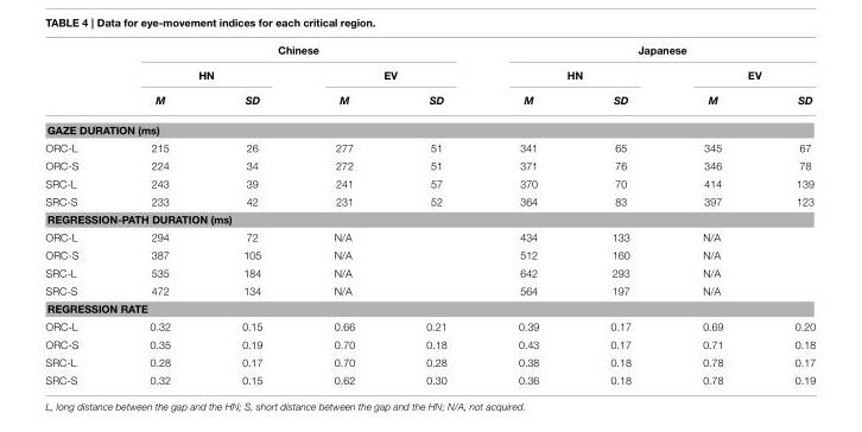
<table><thead><tr><td rowspan="3"></td><td colspan="4">Chinese</td><td colspan="4">Japanese</td></tr><tr><td colspan="2">HN</td><td colspan="2">EV</td><td colspan="2">HN</td><td colspan="2">EV</td></tr><tr><td>M</td><td>SD</td><td>M</td><td>SD</td><td>M</td><td>SD</td><td>M</td><td>SD</td></tr></thead><tbody><tr><td colspan="9">GAZE DURATION (ms)</td></tr><tr><td>ORC-L</td><td>215</td><td>26</td><td>277</td><td>51</td><td>341</td><td>65</td><td>345</td><td>67</td></tr><tr><td>ORC-S</td><td>224</td><td>34</td><td>272</td><td>51</td><td>371</td><td>76</td><td>346</td><td>78</td></tr><tr><td>SRC-L</td><td>243</td><td>39</td><td>241</td><td>57</td><td>370</td><td>70</td><td>414</td><td>139</td></tr><tr><td>SRC-S</td><td>233</td><td>42</td><td>231</td><td>52</td><td>364</td><td>83</td><td>397</td><td>123</td></tr><tr><td colspan="9">REGRESSION-PATH DURATION (ms)</td></tr><tr><td>ORC-L</td><td>294</td><td>72</td><td>N/A</td><td></td><td>434</td><td>133</td><td>N/A</td><td></td></tr><tr><td>ORC-S</td><td>387</td><td>105</td><td>N/A</td><td></td><td>512</td><td>160</td><td>N/A</td><td></td></tr><tr><td>SRC-L</td><td>535</td><td>184</td><td>N/A</td><td></td><td>642</td><td>293</td><td>N/A</td><td></td></tr><tr><td>SRC-S</td><td>472</td><td>134</td><td>N/A</td><td></td><td>564</td><td>197</td><td>N/A</td><td></td></tr><tr><td colspan="9">REGRESSION RATE</td></tr><tr><td>ORC-L</td><td>0.32</td><td>0.15</td><td>0.66</td><td>0.21</td><td>0.39</td><td>0.17</td><td>0.69</td><td>0.20</td></tr><tr><td>ORC-S</td><td>0.35</td><td>0.19</td><td>0.70</td><td>0.18</td><td>0.43</td><td>0.17</td><td>0.71</td><td>0.18</td></tr><tr><td>SRC-L</td><td>0.28</td><td>0.17</td><td>0.70</td><td>0.28</td><td>0.38</td><td>0.18</td><td>0.78</td><td>0.17</td></tr><tr><td>SRC-S</td><td>0.32</td><td>0.15</td><td>0.62</td><td>0.30</td><td>0.36</td><td>0.18</td><td>0.78</td><td>0.19</td></tr></tbody></table>